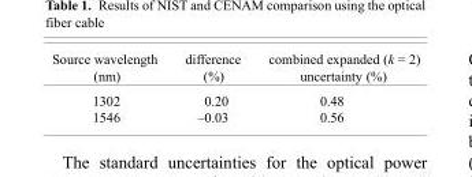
<table><thead><tr><td>Source wavelength (nm)</td><td>difference (%)</td><td>combined expanded (k = 2) uncertainty (%)</td></tr></thead><tbody><tr><td>1302</td><td>0.20</td><td>0.48</td></tr><tr><td>1546</td><td>–0.03</td><td>0.56</td></tr></tbody></table>